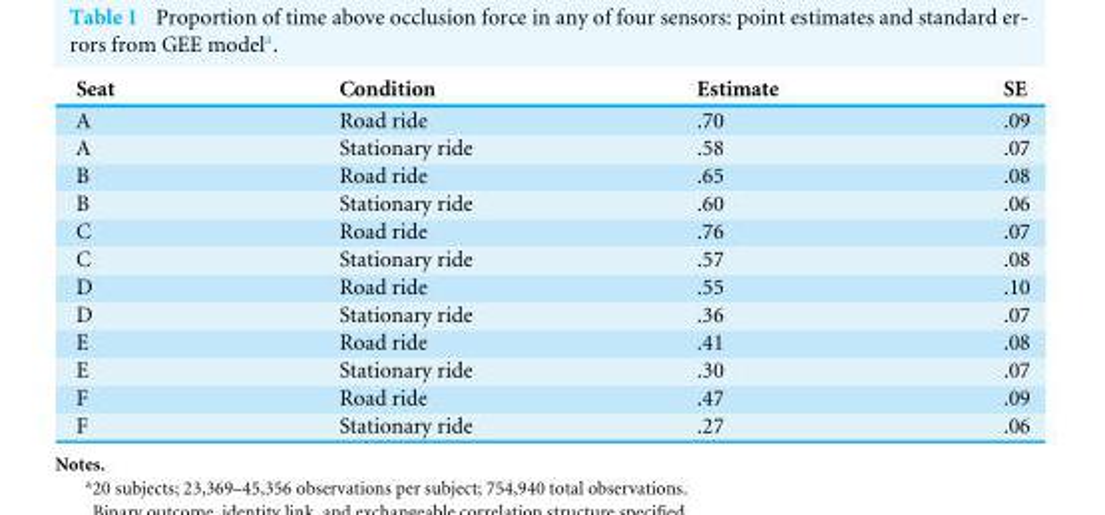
<table><thead><tr><td>Seat</td><td>Condition</td><td>Estimate</td><td>SE</td></tr></thead><tbody><tr><td>A</td><td>Road ride</td><td>.70</td><td>.09</td></tr><tr><td>A</td><td>Stationary ride</td><td>.58</td><td>.07</td></tr><tr><td>B</td><td>Road ride</td><td>.65</td><td>.08</td></tr><tr><td>B</td><td>Stationary ride</td><td>.60</td><td>.06</td></tr><tr><td>C</td><td>Road ride</td><td>.76</td><td>.07</td></tr><tr><td>C</td><td>Stationary ride</td><td>.57</td><td>.08</td></tr><tr><td>D</td><td>Road ride</td><td>.55</td><td>.10</td></tr><tr><td>D</td><td>Stationary ride</td><td>.36</td><td>.07</td></tr><tr><td>E</td><td>Road ride</td><td>.41</td><td>.08</td></tr><tr><td>E</td><td>Stationary ride</td><td>.30</td><td>.07</td></tr><tr><td>F</td><td>Road ride</td><td>.47</td><td>.09</td></tr><tr><td>F</td><td>Stationary ride</td><td>.27</td><td>.06</td></tr></tbody></table>